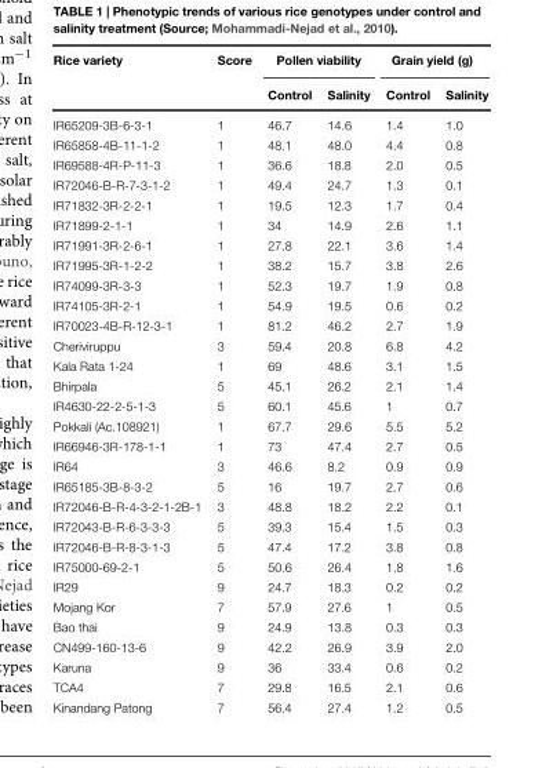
<table><thead><tr><td rowspan="2">Rice variety</td><td rowspan="2">Score</td><td colspan="2">Pollen viability</td><td colspan="2">Grain yield (g)</td></tr><tr><td>Control</td><td>Salinity</td><td>Control</td><td>Salinity</td></tr></thead><tbody><tr><td>IR65209-3B-6-3-1</td><td>1</td><td>46.7</td><td>14.6</td><td>1.4</td><td>1.0</td></tr><tr><td>IR65858-4B-11-1-2</td><td>1</td><td>48.1</td><td>48.0</td><td>4.4</td><td>0.8</td></tr><tr><td>IR69588-4R-P-11-3</td><td>1</td><td>36.6</td><td>18.8</td><td>2.0</td><td>0.5</td></tr><tr><td>IR72046-B-R-7-3-1-2</td><td>1</td><td>49.4</td><td>24.7</td><td>1.3</td><td>0.1</td></tr><tr><td>IR71832-3R-2-2-1</td><td>1</td><td>19.5</td><td>12.3</td><td>1.7</td><td>0.4</td></tr><tr><td>IR71899-2-1-1</td><td>1</td><td>34</td><td>14.9</td><td>2.6</td><td>1.1</td></tr><tr><td>IR71991-3R-2-6-1</td><td>1</td><td>27.8</td><td>22.1</td><td>3.6</td><td>1.4</td></tr><tr><td>IR71995-3R-1-2-2</td><td>1</td><td>38.2</td><td>15.7</td><td>3.8</td><td>2.6</td></tr><tr><td>IR74099-3R-3-3</td><td>1</td><td>52.3</td><td>19.7</td><td>1.9</td><td>0.8</td></tr><tr><td>IR74105-3R-2-1</td><td>1</td><td>54.9</td><td>19.5</td><td>0.6</td><td>0.2</td></tr><tr><td>IR70023-4B-R-12-3-1</td><td>1</td><td>81.2</td><td>46.2</td><td>2.7</td><td>1.9</td></tr><tr><td>Cheriviruppu</td><td>3</td><td>59.4</td><td>20.8</td><td>6.8</td><td>4.2</td></tr><tr><td>Kala Rata 1-24</td><td>1</td><td>69</td><td>48.6</td><td>3.1</td><td>1.5</td></tr><tr><td>Bhirpala</td><td>5</td><td>45.1</td><td>26.2</td><td>2.1</td><td>1.4</td></tr><tr><td>IR4630-22-2-5-1-3</td><td>5</td><td>60.1</td><td>45.6</td><td>1</td><td>0.7</td></tr><tr><td>Pokkali (Ac.108921)</td><td>1</td><td>67.7</td><td>29.6</td><td>5.5</td><td>5.2</td></tr><tr><td>IR66946-3R-178-1-1</td><td>1</td><td>73</td><td>47.4</td><td>2.7</td><td>0.5</td></tr><tr><td>IR64</td><td>3</td><td>46.6</td><td>8.2</td><td>0.9</td><td>0.9</td></tr><tr><td>IR65185-3B-8-3-2</td><td>5</td><td>16</td><td>19.7</td><td>2.7</td><td>0.6</td></tr><tr><td>IR72046-B-R-4-3-2-1-2B-1</td><td>3</td><td>48.8</td><td>18.2</td><td>2.2</td><td>0.1</td></tr><tr><td>IR72043-B-R-6-3-3-3</td><td>5</td><td>39.3</td><td>15.4</td><td>1.5</td><td>0.3</td></tr><tr><td>IR72046-B-R-8-3-1-3</td><td>5</td><td>47.4</td><td>17.2</td><td>3.8</td><td>0.8</td></tr><tr><td>IR75000-69-2-1</td><td>5</td><td>50.6</td><td>26.4</td><td>1.8</td><td>1.6</td></tr><tr><td>IR29</td><td>9</td><td>24.7</td><td>18.3</td><td>0.2</td><td>0.2</td></tr><tr><td>Mojang Kor</td><td>7</td><td>57.9</td><td>27.6</td><td>1</td><td>0.5</td></tr><tr><td>Bao thai</td><td>9</td><td>24.9</td><td>13.8</td><td>0.3</td><td>0.3</td></tr><tr><td>CN499-160-13-6</td><td>9</td><td>42.2</td><td>26.9</td><td>3.9</td><td>2.0</td></tr><tr><td>Karuna</td><td>9</td><td>36</td><td>33.4</td><td>0.6</td><td>0.2</td></tr><tr><td>TCA4</td><td>7</td><td>29.8</td><td>16.5</td><td>2.1</td><td>0.6</td></tr><tr><td>Kinandang Patong</td><td>7</td><td>56.4</td><td>27.4</td><td>1.2</td><td>0.5</td></tr></tbody></table>